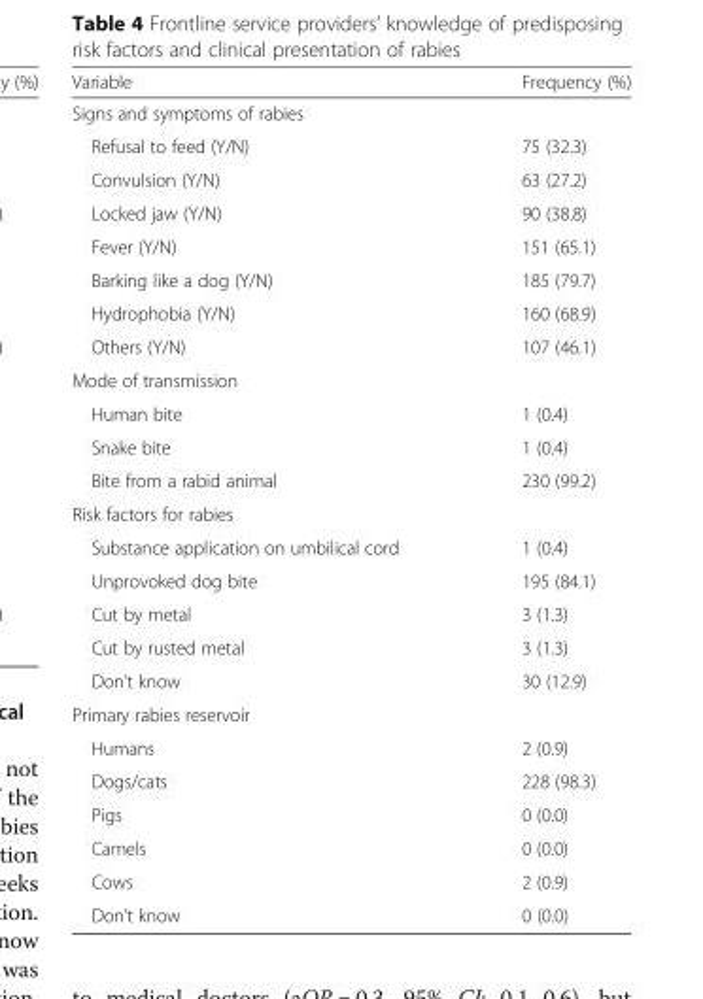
<table><thead><tr><td>Variable</td><td>Frequency (%)</td></tr></thead><tbody><tr><td colspan="2">Signs and symptoms of rabies</td></tr><tr><td>Refusal to feed (Y/N)</td><td>75 (32.3)</td></tr><tr><td>Convulsion (Y/N)</td><td>63 (27.2)</td></tr><tr><td>Locked jaw (Y/N)</td><td>90 (38.8)</td></tr><tr><td>Fever (Y/N)</td><td>151 (65.1)</td></tr><tr><td>Barking like a dog (Y/N)</td><td>185 (79.7)</td></tr><tr><td>Hydrophobia (Y/N)</td><td>160 (68.9)</td></tr><tr><td>Others (Y/N)</td><td>107 (46.1)</td></tr><tr><td colspan="2">Mode of transmission</td></tr><tr><td>Human bite</td><td>1 (0.4)</td></tr><tr><td>Snake bite</td><td>1 (0.4)</td></tr><tr><td>Bite from a rabid animal</td><td>230 (99.2)</td></tr><tr><td colspan="2">Risk factors for rabies</td></tr><tr><td>Substance application on umbilical cord</td><td>1 (0.4)</td></tr><tr><td>Unprovoked dog bite</td><td>195 (84.1)</td></tr><tr><td>Cut by metal</td><td>3 (1.3)</td></tr><tr><td>Cut by rusted metal</td><td>3 (1.3)</td></tr><tr><td>Don’t know</td><td>30 (12.9)</td></tr><tr><td colspan="2">Primary rabies reservoir</td></tr><tr><td>Humans</td><td>2 (0.9)</td></tr><tr><td>Dogs/cats</td><td>228 (98.3)</td></tr><tr><td>Pigs</td><td>0 (0.0)</td></tr><tr><td>Camels</td><td>0 (0.0)</td></tr><tr><td>Cows</td><td>2 (0.9)</td></tr><tr><td>Don’t know</td><td>0 (0.0)</td></tr></tbody></table>